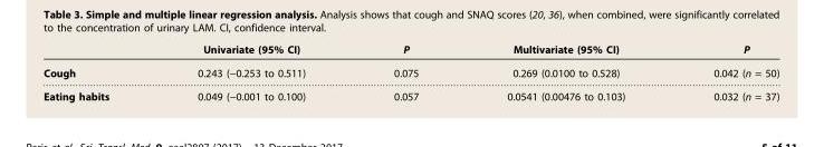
<table><thead><tr><td></td><td>Univariate (95% CI)</td><td>P</td><td>Multivariate (95% CI)</td><td>P</td></tr></thead><tbody><tr><td>Cough</td><td>0.243 (−0.253 to 0.511)</td><td>0.075</td><td>0.269 (0.0100 to 0.528)</td><td>0.042 (n = 50)</td></tr><tr><td>Eating habits</td><td>0.049 (−0.001 to 0.100)</td><td>0.057</td><td>0.0541 (0.00476 to 0.103)</td><td>0.032 (n = 37)</td></tr></tbody></table>